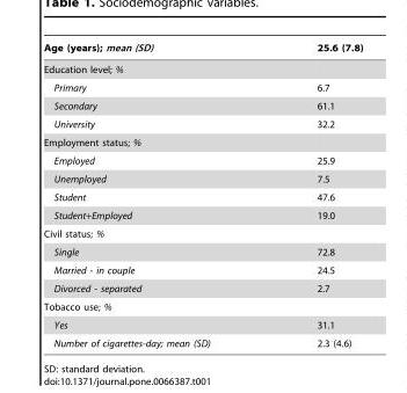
<table><thead><tr><td>Age (years); mean (SD)</td><td>25.6 (7.8)</td></tr></thead><tbody><tr><td colspan="2">Education level; %</td></tr><tr><td>Primary</td><td>6.7</td></tr><tr><td>Secondary</td><td>61.1</td></tr><tr><td>University</td><td>32.2</td></tr><tr><td colspan="2">Employment status; %</td></tr><tr><td>Employed</td><td>25.9</td></tr><tr><td>Unemployed</td><td>7.5</td></tr><tr><td>Student</td><td>47.6</td></tr><tr><td>Student+Employed</td><td>19.0</td></tr><tr><td colspan="2">Civil status; %</td></tr><tr><td>Single</td><td>72.8</td></tr><tr><td>Married - in couple</td><td>24.5</td></tr><tr><td>Divorced - separated</td><td>2.7</td></tr><tr><td colspan="2">Tobacco use; %</td></tr><tr><td>Yes</td><td>31.1</td></tr><tr><td>Number of cigarettes-day; mean (SD)</td><td>2.3 (4.6)</td></tr></tbody></table>